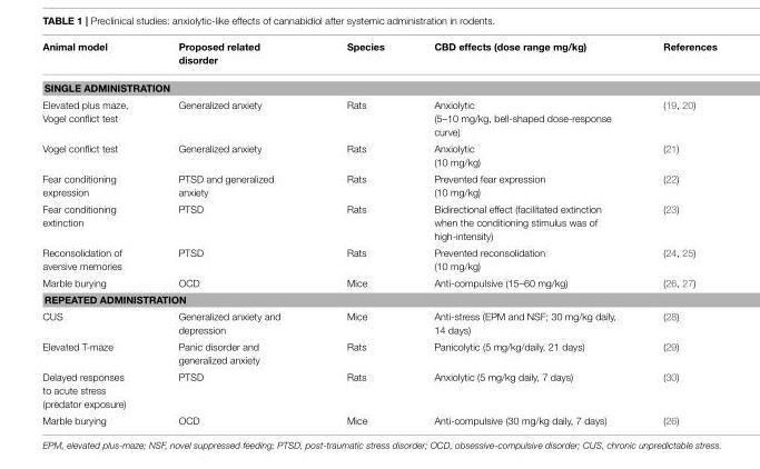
<table><thead><tr><td>Animal model</td><td>Proposed related disorder</td><td>Species</td><td>CBD effects (dose range mg/kg)</td><td>References</td></tr></thead><tbody><tr><td colspan="5">SINGLE ADMINISTRATION</td></tr><tr><td>Elevated plus maze, Vogel conflict test</td><td>Generalized anxiety</td><td>Rats</td><td>Anxiolytic (5–10 mg/kg, bell-shaped dose-response curve)</td><td>(19, 20)</td></tr><tr><td>Vogel conflict test</td><td>Generalized anxiety</td><td>Rats</td><td>Anxiolytic (10 mg/kg)</td><td>(21)</td></tr><tr><td>Fear conditioning expression</td><td>PTSD and generalized anxiety</td><td>Rats</td><td>Prevented fear expression (10 mg/kg)</td><td>(22)</td></tr><tr><td>Fear conditioning extinction</td><td>PTSD</td><td>Rats</td><td>Bidirectional effect (facilitated extinction when the conditioning stimulus was of high-intensity)</td><td>(23)</td></tr><tr><td>Reconsolidation of aversive memories</td><td>PTSD</td><td>Rats</td><td>Prevented reconsolidation (10 mg/kg)</td><td>(24, 25)</td></tr><tr><td>Marble burying</td><td>OCD</td><td>Mice</td><td>Anti-compulsive (15–60 mg/kg)</td><td>(26, 27)</td></tr><tr><td colspan="5">REPEATED ADMINISTRATION</td></tr><tr><td>CUS</td><td>Generalized anxiety and depression</td><td>Mice</td><td>Anti-stress (EPM and NSF; 30 mg/kg daily, 14 days)</td><td>(28)</td></tr><tr><td>Elevated T-maze</td><td>Panic disorder and generalized anxiety</td><td>Rats</td><td>Panicolytic (5 mg/kg/daily, 21 days)</td><td>(29)</td></tr><tr><td>Delayed responses to acute stress (predator exposure)</td><td>PTSD</td><td>Rats</td><td>Anxiolytic (5 mg/kg daily, 7 days)</td><td>(30)</td></tr><tr><td>Marble burying</td><td>OCD</td><td>Mice</td><td>Anti-compulsive (30 mg/kg daily, 7 days)</td><td>(26)</td></tr></tbody></table>